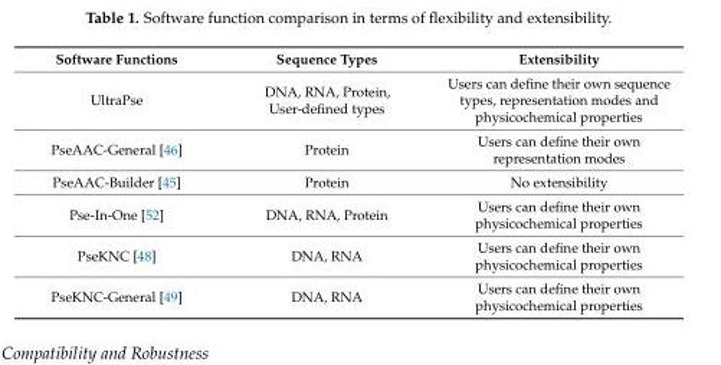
<table><thead><tr><td>Software Functions</td><td>Sequence Types</td><td>Extensibility</td></tr></thead><tbody><tr><td>UltraPse</td><td>DNA, RNA, Protein, User-defined types</td><td>Users can define their own sequence types, representation modes and physicochemical properties</td></tr><tr><td>PseAAC-General [46]</td><td>Protein</td><td>Users can define their own representation modes</td></tr><tr><td>PseAAC-Builder [45]</td><td>Protein</td><td>No extensibility</td></tr><tr><td>Pse-In-One [52]</td><td>DNA, RNA, Protein</td><td>Users can define their own physicochemical properties</td></tr><tr><td>PseKNC [48]</td><td>DNA, RNA</td><td>Users can define their own physicochemical properties</td></tr><tr><td>PseKNC-General [49]</td><td>DNA, RNA</td><td>Users can define their own physicochemical properties</td></tr></tbody></table>